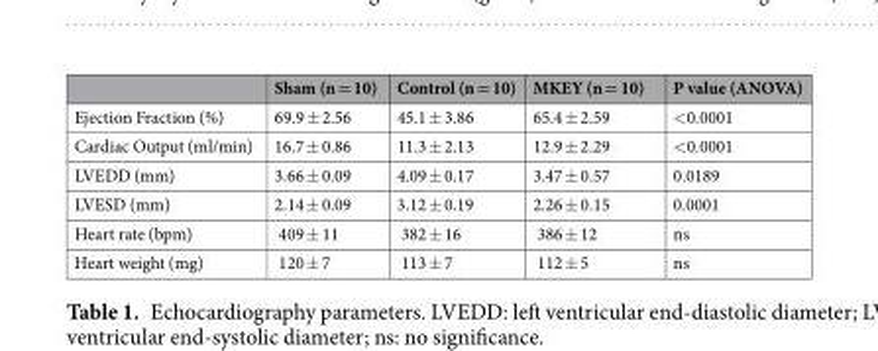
<table><thead><tr><td></td><td>Sham (n = 10)</td><td>Control (n = 10)</td><td>MKEY (n = 10)</td><td>P value (ANOVA)</td></tr></thead><tbody><tr><td>Ejection Fraction (%)</td><td>69.9 ± 2.56</td><td>45.1 ± 3.86</td><td>65.4 ± 2.59</td><td>&lt;0.0001</td></tr><tr><td>Cardiac Output (ml/min)</td><td>16.7 ± 0.86</td><td>11.3 ± 2.13</td><td>12.9 ± 2.29</td><td>&lt;0.0001</td></tr><tr><td>LVEDD (mm)</td><td>3.66 ± 0.09</td><td>4.09 ± 0.17</td><td>3.47 ± 0.57</td><td>0.0189</td></tr><tr><td>LVESD (mm)</td><td>2.14 ± 0.09</td><td>3.12 ± 0.19</td><td>2.26 ± 0.15</td><td>0.0001</td></tr><tr><td>Heart rate (bpm)</td><td>409 ± 11</td><td>382 ± 16</td><td>386 ± 12</td><td>ns</td></tr><tr><td>Heart weight (mg)</td><td>120 ± 7</td><td>113 ± 7</td><td>112 ± 5</td><td>ns</td></tr></tbody></table>